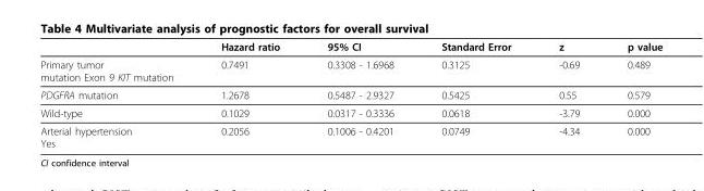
<table><thead><tr><td></td><td>Hazard ratio</td><td>95% CI</td><td>Standard Error</td><td>z</td><td>p value</td></tr></thead><tbody><tr><td>Primary tumor mutation Exon 9 KIT mutation</td><td>0.7491</td><td>0.3308 - 1.6968</td><td>0.3125</td><td>-0.69</td><td>0.489</td></tr><tr><td>PDGFRA mutation</td><td>1.2678</td><td>0.5487 - 2.9327</td><td>0.5425</td><td>0.55</td><td>0.579</td></tr><tr><td>Wild-type</td><td>0.1029</td><td>0.0317 - 0.3336</td><td>0.0618</td><td>-3.79</td><td>0.000</td></tr><tr><td>Arterial hypertension Yes</td><td>0.2056</td><td>0.1006 - 0.4201</td><td>0.0749</td><td>-4.34</td><td>0.000</td></tr></tbody></table>